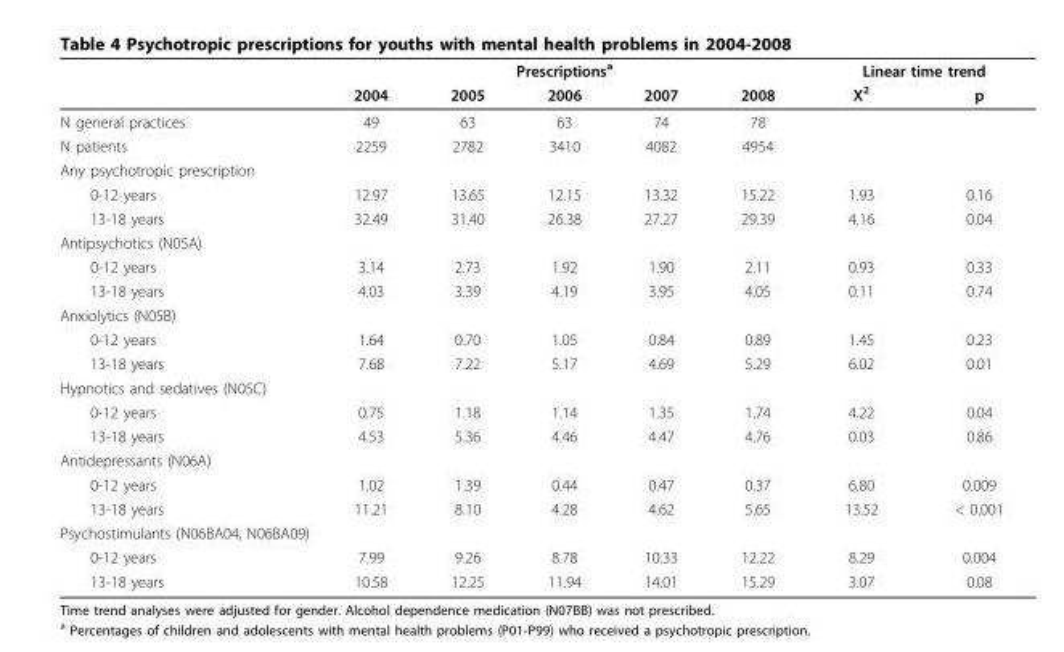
<table><thead><tr><td rowspan="2"></td><td colspan="5">Prescriptions<sup>a</sup></td><td colspan="2">Linear time trend</td></tr><tr><td>2004</td><td>2005</td><td>2006</td><td>2007</td><td>2008</td><td>X<sup>2</sup></td><td>p</td></tr></thead><tbody><tr><td>N general practices</td><td>49</td><td>63</td><td>63</td><td>74</td><td>78</td><td></td><td></td></tr><tr><td>N patients</td><td>2259</td><td>2782</td><td>3410</td><td>4082</td><td>4954</td><td></td><td></td></tr><tr><td colspan="8">Any psychotropic prescription</td></tr><tr><td>0-12 years</td><td>12.97</td><td>13.65</td><td>12.15</td><td>13.32</td><td>15.22</td><td>1.93</td><td>0.16</td></tr><tr><td>13-18 years</td><td>32.49</td><td>31.40</td><td>26.38</td><td>27.27</td><td>29.39</td><td>4.16</td><td>0.04</td></tr><tr><td colspan="8">Antipsychotics (N05A)</td></tr><tr><td>0-12 years</td><td>3.14</td><td>2.73</td><td>1.92</td><td>1.90</td><td>2.11</td><td>0.93</td><td>0.33</td></tr><tr><td>13-18 years</td><td>4.03</td><td>3.39</td><td>4.19</td><td>3.95</td><td>4.05</td><td>0.11</td><td>0.74</td></tr><tr><td colspan="8">Anxiolytics (N05B)</td></tr><tr><td>0-12 years</td><td>1.64</td><td>0.70</td><td>1.05</td><td>0.84</td><td>0.89</td><td>1.45</td><td>0.23</td></tr><tr><td>13-18 years</td><td>7.68</td><td>7.22</td><td>5.17</td><td>4.69</td><td>5.29</td><td>6.02</td><td>0.01</td></tr><tr><td colspan="8">Hypnotics and sedatives (N05C)</td></tr><tr><td>0-12 years</td><td>0.75</td><td>1.18</td><td>1.14</td><td>1.35</td><td>1.74</td><td>4.22</td><td>0.04</td></tr><tr><td>13-18 years</td><td>4.53</td><td>5.36</td><td>4.46</td><td>4.47</td><td>4.76</td><td>0.03</td><td>0.86</td></tr><tr><td colspan="8">Antidepressants (N06A)</td></tr><tr><td>0-12 years</td><td>1.02</td><td>1.39</td><td>0.44</td><td>0.47</td><td>0.37</td><td>6.80</td><td>0.009</td></tr><tr><td>13-18 years</td><td>11.21</td><td>8.10</td><td>4.28</td><td>4.62</td><td>5.65</td><td>13.52</td><td>&lt; 0.001</td></tr><tr><td colspan="8">Psychostimulants (N06BA04, N06BA09)</td></tr><tr><td>0-12 years</td><td>7.99</td><td>9.26</td><td>8.78</td><td>10.33</td><td>12.22</td><td>8.29</td><td>0.004</td></tr><tr><td>13-18 years</td><td>10.58</td><td>12.25</td><td>11.94</td><td>14.01</td><td>15.29</td><td>3.07</td><td>0.08</td></tr></tbody></table>